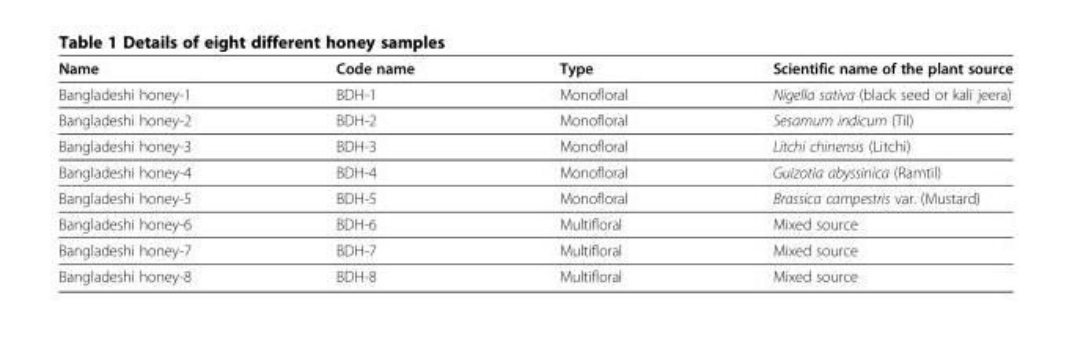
<table><thead><tr><td>Name</td><td>Code name</td><td>Type</td><td>Scientific name of the plant source</td></tr></thead><tbody><tr><td>Bangladeshi honey-1</td><td>BDH-1</td><td>Monofloral</td><td>Nigella sativa (black seed or kali jeera)</td></tr><tr><td>Bangladeshi honey-2</td><td>BDH-2</td><td>Monofloral</td><td>Sesamum indicum (Til)</td></tr><tr><td>Bangladeshi honey-3</td><td>BDH-3</td><td>Monofloral</td><td>Litchi chinensis (Litchi)</td></tr><tr><td>Bangladeshi honey-4</td><td>BDH-4</td><td>Monofloral</td><td>Guizotia abyssinica (Ramtil)</td></tr><tr><td>Bangladeshi honey-5</td><td>BDH-5</td><td>Monofloral</td><td>Brassica campestris var. (Mustard)</td></tr><tr><td>Bangladeshi honey-6</td><td>BDH-6</td><td>Multifloral</td><td>Mixed source</td></tr><tr><td>Bangladeshi honey-7</td><td>BDH-7</td><td>Multifloral</td><td>Mixed source</td></tr><tr><td>Bangladeshi honey-8</td><td>BDH-8</td><td>Multifloral</td><td>Mixed source</td></tr></tbody></table>